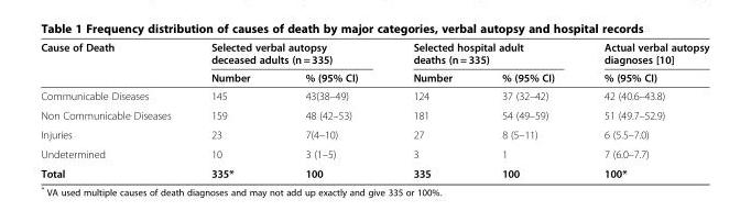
<table><thead><tr><td rowspan="2">Cause of Death</td><td colspan="2">Selected verbal autopsy deceased adults (n = 335)</td><td colspan="2">Selected hospital adult deaths (n = 335)</td><td rowspan="2">Actual verbal autopsy diagnoses [10] % (95% CI)</td></tr><tr><td>Number</td><td>% (95% CI)</td><td>Number</td><td>% (95% CI)</td></tr></thead><tbody><tr><td>Communicable Diseases</td><td>145</td><td>43(38–49)</td><td>124</td><td>37 (32–42)</td><td>42 (40.6–43.8)</td></tr><tr><td>Non Communicable Diseases</td><td>159</td><td>48 (42–53)</td><td>181</td><td>54 (49–59)</td><td>51 (49.7–52.9)</td></tr><tr><td>Injuries</td><td>23</td><td>7(4–10)</td><td>27</td><td>8 (5–11)</td><td>6 (5.5–7.0)</td></tr><tr><td>Undetermined</td><td>10</td><td>3 (1–5)</td><td>3</td><td>1</td><td>7 (6.0–7.7)</td></tr><tr><td>Total</td><td>335*</td><td>100</td><td>335</td><td>100</td><td>100*</td></tr></tbody></table>